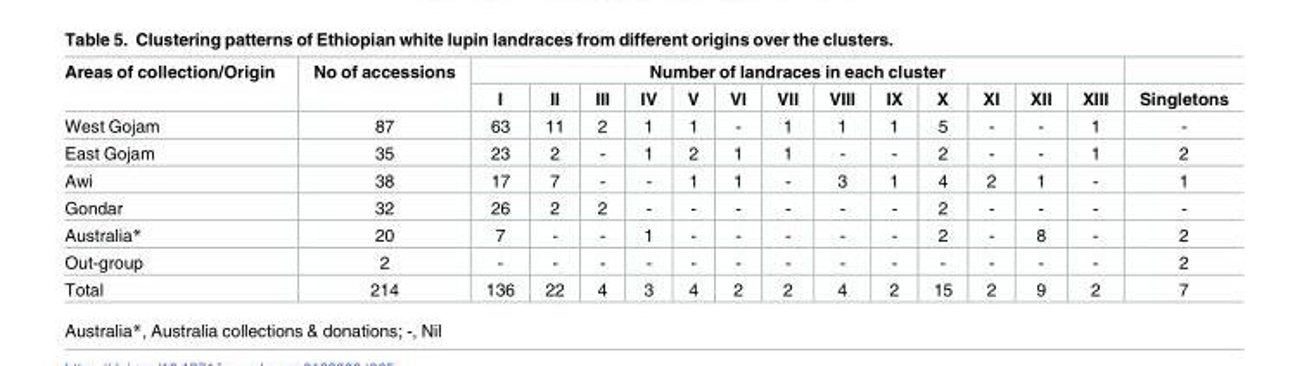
<table><thead><tr><td rowspan="2">Areas of collection/Origin</td><td rowspan="2">No of accessions</td><td colspan="13">Number of landraces in each cluster</td><td rowspan="2">Singletons</td></tr><tr><td>I</td><td>II</td><td>III</td><td>IV</td><td>V</td><td>VI</td><td>VII</td><td>VIII</td><td>IX</td><td>X</td><td>XI</td><td>XII</td><td>XIII</td></tr></thead><tbody><tr><td>West Gojam</td><td>87</td><td>63</td><td>11</td><td>2</td><td>1</td><td>1</td><td>-</td><td>1</td><td>1</td><td>1</td><td>5</td><td>-</td><td>-</td><td>1</td><td>-</td></tr><tr><td>East Gojam</td><td>35</td><td>23</td><td>2</td><td>-</td><td>1</td><td>2</td><td>1</td><td>1</td><td>-</td><td>-</td><td>2</td><td>-</td><td>-</td><td>1</td><td>2</td></tr><tr><td>Awi</td><td>38</td><td>17</td><td>7</td><td>-</td><td>-</td><td>1</td><td>1</td><td>-</td><td>3</td><td>1</td><td>4</td><td>2</td><td>1</td><td>-</td><td>1</td></tr><tr><td>Gondar</td><td>32</td><td>26</td><td>2</td><td>2</td><td>-</td><td>-</td><td>-</td><td>-</td><td>-</td><td>-</td><td>2</td><td>-</td><td>-</td><td>-</td><td>-</td></tr><tr><td>Australia*</td><td>20</td><td>7</td><td>-</td><td>-</td><td>1</td><td>-</td><td>-</td><td>-</td><td>-</td><td>-</td><td>2</td><td>-</td><td>8</td><td>-</td><td>2</td></tr><tr><td>Out-group</td><td>2</td><td>-</td><td>-</td><td>-</td><td>-</td><td>-</td><td>-</td><td>-</td><td>-</td><td>-</td><td>-</td><td>-</td><td>-</td><td>-</td><td>2</td></tr><tr><td>Total</td><td>214</td><td>136</td><td>22</td><td>4</td><td>3</td><td>4</td><td>2</td><td>2</td><td>4</td><td>2</td><td>15</td><td>2</td><td>9</td><td>2</td><td>7</td></tr></tbody></table>